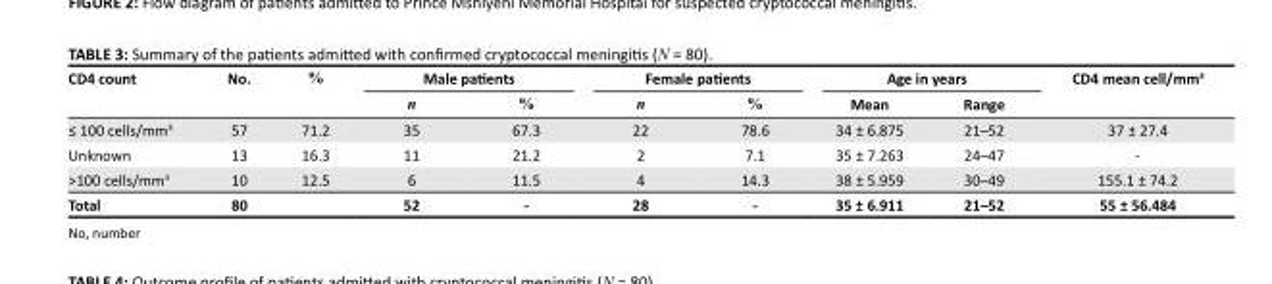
<table><thead><tr><td rowspan="2">CD4 count</td><td rowspan="2">No.</td><td rowspan="2">%</td><td colspan="2">Male patients</td><td colspan="2">Female patients</td><td colspan="2">Age in years</td><td rowspan="2">CD4 mean cell/mm<sup>3</sup></td></tr><tr><td>n</td><td>%</td><td>n</td><td>%</td><td>Mean</td><td>Range</td></tr></thead><tbody><tr><td>≤ 100 cells/mm<sup>3</sup></td><td>57</td><td>71.2</td><td>35</td><td>67.3</td><td>22</td><td>78.6</td><td>34 ± 6.875</td><td>21–52</td><td>37 ± 27.4</td></tr><tr><td>Unknown</td><td>13</td><td>16.3</td><td>11</td><td>21.2</td><td>2</td><td>7.1</td><td>35 ± 7.263</td><td>24–47</td><td>-</td></tr><tr><td>&gt;100 cells/mm<sup>3</sup></td><td>10</td><td>12.5</td><td>6</td><td>11.5</td><td>4</td><td>14.3</td><td>38 ± 5.959</td><td>30–49</td><td>155.1 ± 74.2</td></tr><tr><td>Total</td><td>80</td><td></td><td>52</td><td>-</td><td>28</td><td>-</td><td>35 ± 6.911</td><td>21–52</td><td>55 ± 56.484</td></tr></tbody></table>